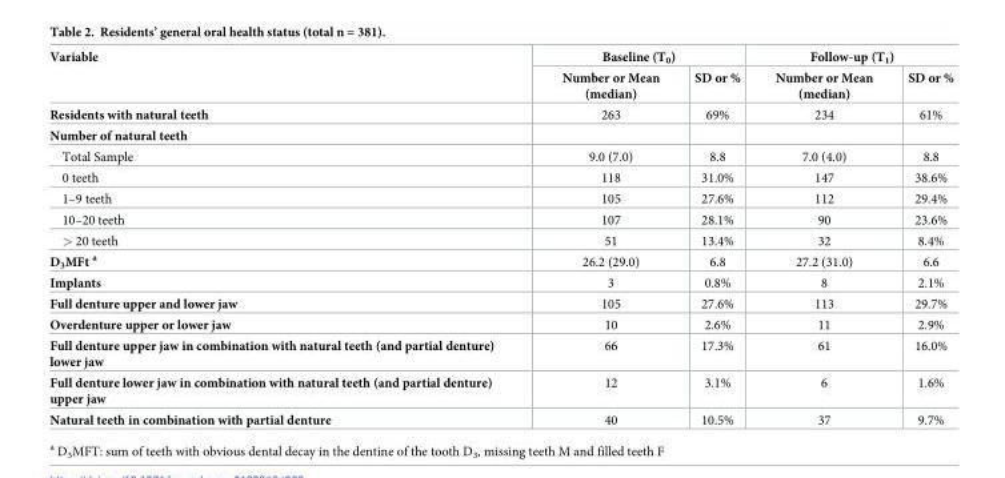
<table><thead><tr><td rowspan="2">Variable</td><td colspan="2">Baseline (T<sub>0</sub>)</td><td colspan="2">Follow-up (T<sub>1</sub>)</td></tr><tr><td>Number or Mean (median)</td><td>SD or %</td><td>Number or Mean (median)</td><td>SD or %</td></tr></thead><tbody><tr><td>Residents with natural teeth</td><td>263</td><td>69%</td><td>234</td><td>61%</td></tr><tr><td colspan="5">Number of natural teeth</td></tr><tr><td>Total Sample</td><td>9.0 (7.0)</td><td>8.8</td><td>7.0 (4.0)</td><td>8.8</td></tr><tr><td>0 teeth</td><td>118</td><td>31.0%</td><td>147</td><td>38.6%</td></tr><tr><td>1–9 teeth</td><td>105</td><td>27.6%</td><td>112</td><td>29.4%</td></tr><tr><td>10–20 teeth</td><td>107</td><td>28.1%</td><td>90</td><td>23.6%</td></tr><tr><td>&gt; 20 teeth</td><td>51</td><td>13.4%</td><td>32</td><td>8.4%</td></tr><tr><td>D<sub>3</sub>MFt <sup>a</sup></td><td>26.2 (29.0)</td><td>6.8</td><td>27.2 (31.0)</td><td>6.6</td></tr><tr><td>Implants</td><td>3</td><td>0.8%</td><td>8</td><td>2.1%</td></tr><tr><td>Full denture upper and lower jaw</td><td>105</td><td>27.6%</td><td>113</td><td>29.7%</td></tr><tr><td>Overdenture upper or lower jaw</td><td>10</td><td>2.6%</td><td>11</td><td>2.9%</td></tr><tr><td>Full denture upper jaw in combination with natural teeth (and partial denture) lower jaw</td><td>66</td><td>17.3%</td><td>61</td><td>16.0%</td></tr><tr><td>Full denture lower jaw in combination with natural teeth (and partial denture) upper jaw</td><td>12</td><td>3.1%</td><td>6</td><td>1.6%</td></tr><tr><td>Natural teeth in combination with partial denture</td><td>40</td><td>10.5%</td><td>37</td><td>9.7%</td></tr></tbody></table>